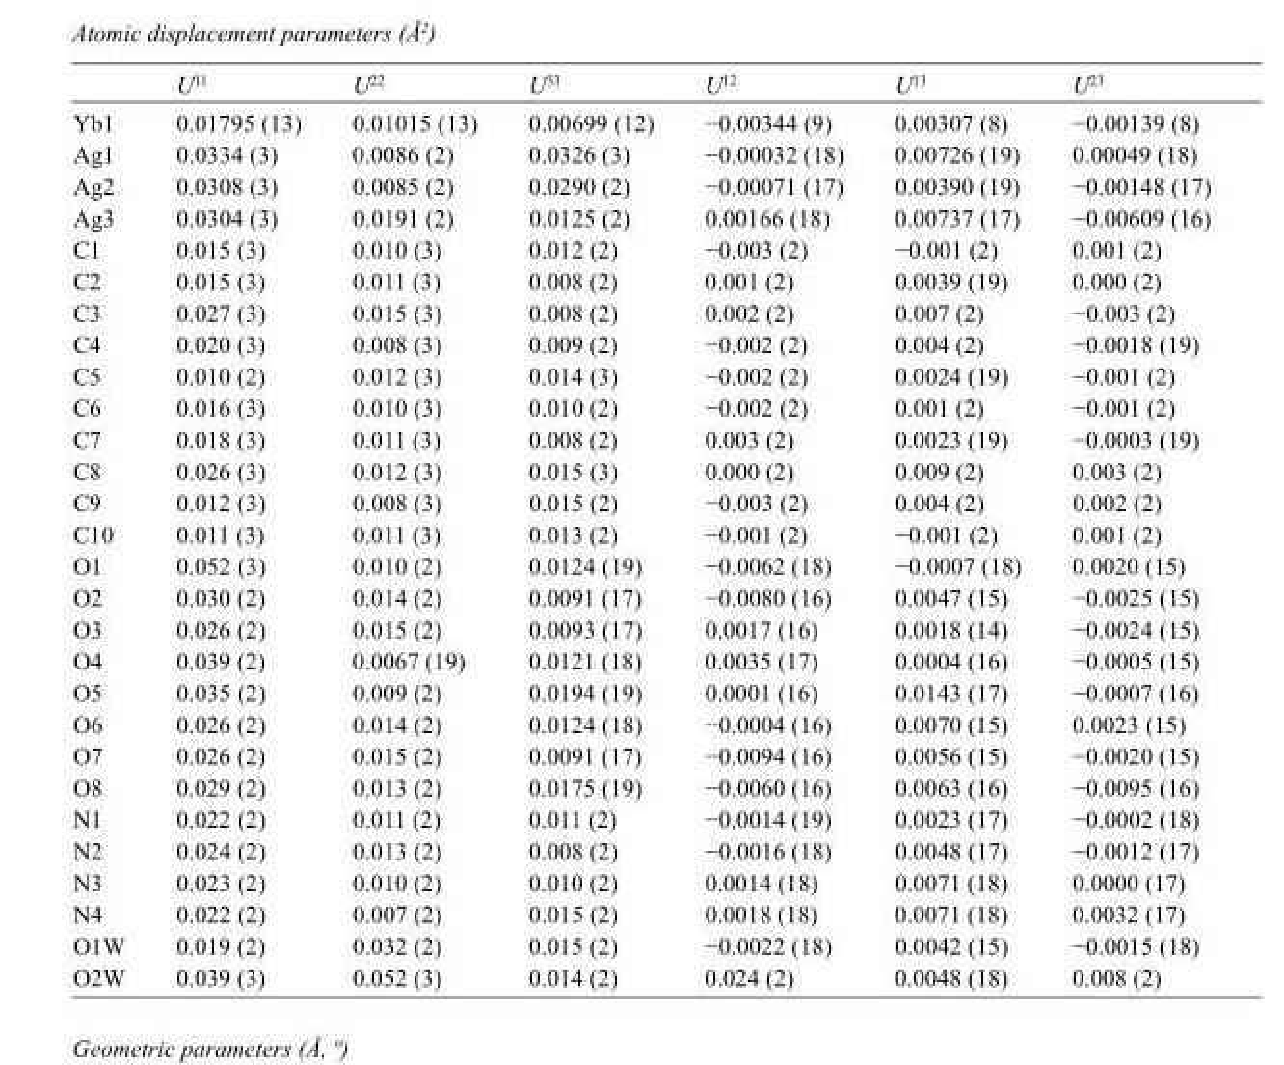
<table><thead><tr><td></td><td>U<sup>11</sup></td><td>U<sup>22</sup></td><td>U<sup>33</sup></td><td>U<sup>12</sup></td><td>U<sup>13</sup></td><td>U<sup>23</sup></td></tr></thead><tbody><tr><td>Yb1</td><td>0.01795 (13)</td><td>0.01015 (13)</td><td>0.00699 (12)</td><td>−0.00344 (9)</td><td>0.00307 (8)</td><td>−0.00139 (8)</td></tr><tr><td>Ag1</td><td>0.0334 (3)</td><td>0.0086 (2)</td><td>0.0326 (3)</td><td>−0.00032 (18)</td><td>0.00726 (19)</td><td>0.00049 (18)</td></tr><tr><td>Ag2</td><td>0.0308 (3)</td><td>0.0085 (2)</td><td>0.0290 (2)</td><td>−0.00071 (17)</td><td>0.00390 (19)</td><td>−0.00148 (17)</td></tr><tr><td>Ag3</td><td>0.0304 (3)</td><td>0.0191 (2)</td><td>0.0125 (2)</td><td>0.00166 (18)</td><td>0.00737 (17)</td><td>−0.00609 (16)</td></tr><tr><td>C1</td><td>0.015 (3)</td><td>0.010 (3)</td><td>0.012 (2)</td><td>−0.003 (2)</td><td>−0.001 (2)</td><td>0.001 (2)</td></tr><tr><td>C2</td><td>0.015 (3)</td><td>0.011 (3)</td><td>0.008 (2)</td><td>0.001 (2)</td><td>0.0039 (19)</td><td>0.000 (2)</td></tr><tr><td>C3</td><td>0.027 (3)</td><td>0.015 (3)</td><td>0.008 (2)</td><td>0.002 (2)</td><td>0.007 (2)</td><td>−0.003 (2)</td></tr><tr><td>C4</td><td>0.020 (3)</td><td>0.008 (3)</td><td>0.009 (2)</td><td>−0.002 (2)</td><td>0.004 (2)</td><td>−0.0018 (19)</td></tr><tr><td>C5</td><td>0.010 (2)</td><td>0.012 (3)</td><td>0.014 (3)</td><td>−0.002 (2)</td><td>0.0024 (19)</td><td>−0.001 (2)</td></tr><tr><td>C6</td><td>0.016 (3)</td><td>0.010 (3)</td><td>0.010 (2)</td><td>−0.002 (2)</td><td>0.001 (2)</td><td>−0.001 (2)</td></tr><tr><td>C7</td><td>0.018 (3)</td><td>0.011 (3)</td><td>0.008 (2)</td><td>0.003 (2)</td><td>0.0023 (19)</td><td>−0.0003 (19)</td></tr><tr><td>C8</td><td>0.026 (3)</td><td>0.012 (3)</td><td>0.015 (3)</td><td>0.000 (2)</td><td>0.009 (2)</td><td>0.003 (2)</td></tr><tr><td>C9</td><td>0.012 (3)</td><td>0.008 (3)</td><td>0.015 (2)</td><td>−0.003 (2)</td><td>0.004 (2)</td><td>0.002 (2)</td></tr><tr><td>C10</td><td>0.011 (3)</td><td>0.011 (3)</td><td>0.013 (2)</td><td>−0.001 (2)</td><td>−0.001 (2)</td><td>0.001 (2)</td></tr><tr><td>O1</td><td>0.052 (3)</td><td>0.010 (2)</td><td>0.0124 (19)</td><td>−0.0062 (18)</td><td>−0.0007 (18)</td><td>0.0020 (15)</td></tr><tr><td>O2</td><td>0.030 (2)</td><td>0.014 (2)</td><td>0.0091 (17)</td><td>−0.0080 (16)</td><td>0.0047 (15)</td><td>−0.0025 (15)</td></tr><tr><td>O3</td><td>0.026 (2)</td><td>0.015 (2)</td><td>0.0093 (17)</td><td>0.0017 (16)</td><td>0.0018 (14)</td><td>−0.0024 (15)</td></tr><tr><td>O4</td><td>0.039 (2)</td><td>0.0067 (19)</td><td>0.0121 (18)</td><td>0.0035 (17)</td><td>0.0004 (16)</td><td>−0.0005 (15)</td></tr><tr><td>O5</td><td>0.035 (2)</td><td>0.009 (2)</td><td>0.0194 (19)</td><td>0.0001 (16)</td><td>0.0143 (17)</td><td>−0.0007 (16)</td></tr><tr><td>O6</td><td>0.026 (2)</td><td>0.014 (2)</td><td>0.0124 (18)</td><td>−0.0004 (16)</td><td>0.0070 (15)</td><td>0.0023 (15)</td></tr><tr><td>O7</td><td>0.026 (2)</td><td>0.015 (2)</td><td>0.0091 (17)</td><td>−0.0094 (16)</td><td>0.0056 (15)</td><td>−0.0020 (15)</td></tr><tr><td>O8</td><td>0.029 (2)</td><td>0.013 (2)</td><td>0.0175 (19)</td><td>−0.0060 (16)</td><td>0.0063 (16)</td><td>−0.0095 (16)</td></tr><tr><td>N1</td><td>0.022 (2)</td><td>0.011 (2)</td><td>0.011 (2)</td><td>−0.0014 (19)</td><td>0.0023 (17)</td><td>−0.0002 (18)</td></tr><tr><td>N2</td><td>0.024 (2)</td><td>0.013 (2)</td><td>0.008 (2)</td><td>−0.0016 (18)</td><td>0.0048 (17)</td><td>−0.0012 (17)</td></tr><tr><td>N3</td><td>0.023 (2)</td><td>0.010 (2)</td><td>0.010 (2)</td><td>0.0014 (18)</td><td>0.0071 (18)</td><td>0.0000 (17)</td></tr><tr><td>N4</td><td>0.022 (2)</td><td>0.007 (2)</td><td>0.015 (2)</td><td>0.0018 (18)</td><td>0.0071 (18)</td><td>0.0032 (17)</td></tr><tr><td>O1W</td><td>0.019 (2)</td><td>0.032 (2)</td><td>0.015 (2)</td><td>−0.0022 (18)</td><td>0.0042 (15)</td><td>−0.0015 (18)</td></tr><tr><td>O2W</td><td>0.039 (3)</td><td>0.052 (3)</td><td>0.014 (2)</td><td>0.024 (2)</td><td>0.0048 (18)</td><td>0.008 (2)</td></tr></tbody></table>